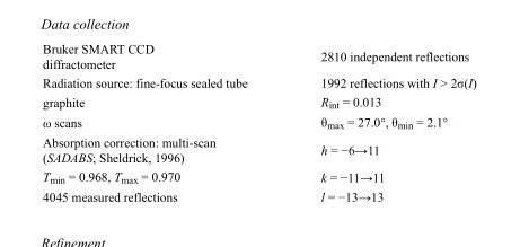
<table><tbody><tr><td>Bruker SMART CCD diffractometer</td><td>2810 independent reflections</td></tr><tr><td>Radiation source: fine-focus sealed tube</td><td>1992 reflections with I &gt; 2σ(I)</td></tr><tr><td>graphite</td><td>R<sub>int</sub> = 0.013</td></tr><tr><td>ω scans</td><td>θ<sub>max</sub> = 27.0°, θ<sub>min</sub> = 2.1°</td></tr><tr><td>Absorption correction: multi-scan (SADABS; Sheldrick, 1996)</td><td>h = −6→11</td></tr><tr><td>T<sub>min</sub> = 0.968, T<sub>max</sub> = 0.970</td><td>k = −11→11</td></tr><tr><td>4045 measured reflections</td><td>l = −13→13</td></tr></tbody></table>